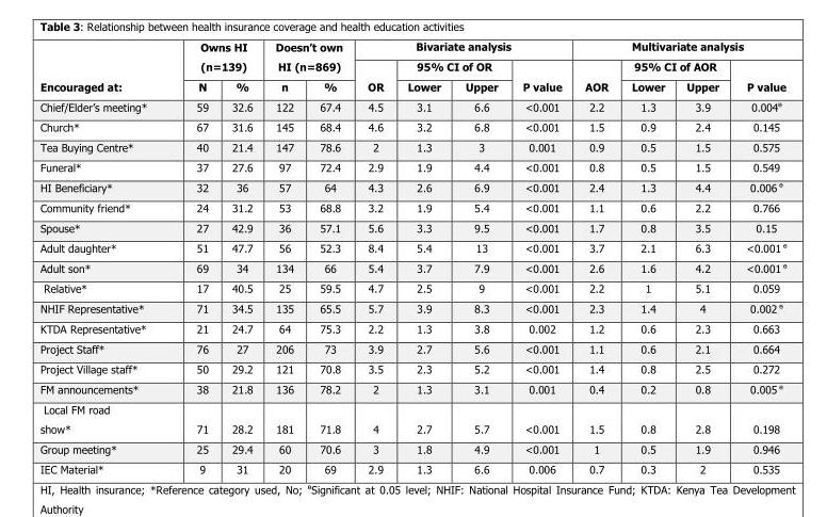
<table><thead><tr><td rowspan="3">Encouraged at:</td><td rowspan="2" colspan="2">Owns HI (n=139)</td><td rowspan="2" colspan="2">Doesn’t own HI (n=869)</td><td colspan="4">Bivariate analysis</td><td colspan="4">Multivariate analysis</td></tr><tr><td rowspan="2">OR</td><td colspan="2">95% CI of OR</td><td rowspan="2">P value</td><td rowspan="2">AOR</td><td colspan="2">95% CI of AOR</td><td rowspan="2">P value</td></tr><tr><td>N</td><td>%</td><td>n</td><td>%</td><td>Lower</td><td>Upper</td><td>Lower</td><td>Upper</td></tr></thead><tbody><tr><td>Chief/Elder’s meeting*</td><td>59</td><td>32.6</td><td>122</td><td>67.4</td><td>4.5</td><td>3.1</td><td>6.6</td><td>&lt;0.001</td><td>2.2</td><td>1.3</td><td>3.9</td><td>0.004ө</td></tr><tr><td>Church*</td><td>67</td><td>31.6</td><td>145</td><td>68.4</td><td>4.6</td><td>3.2</td><td>6.8</td><td>&lt;0.001</td><td>1.5</td><td>0.9</td><td>2.4</td><td>0.145</td></tr><tr><td>Tea Buying Centre*</td><td>40</td><td>21.4</td><td>147</td><td>78.6</td><td>2</td><td>1.3</td><td>3</td><td>0.001</td><td>0.9</td><td>0.5</td><td>1.5</td><td>0.575</td></tr><tr><td>Funeral*</td><td>37</td><td>27.6</td><td>97</td><td>72.4</td><td>2.9</td><td>1.9</td><td>4.4</td><td>&lt;0.001</td><td>0.8</td><td>0.5</td><td>1.5</td><td>0.549</td></tr><tr><td>HI Beneficiary*</td><td>32</td><td>36</td><td>57</td><td>64</td><td>4.3</td><td>2.6</td><td>6.9</td><td>&lt;0.001</td><td>2.4</td><td>1.3</td><td>4.4</td><td>0.006 ө</td></tr><tr><td>Community friend*</td><td>24</td><td>31.2</td><td>53</td><td>68.8</td><td>3.2</td><td>1.9</td><td>5.4</td><td>&lt;0.001</td><td>1.1</td><td>0.6</td><td>2.2</td><td>0.766</td></tr><tr><td>Spouse*</td><td>27</td><td>42.9</td><td>36</td><td>57.1</td><td>5.6</td><td>3.3</td><td>9.5</td><td>&lt;0.001</td><td>1.7</td><td>0.8</td><td>3.5</td><td>0.15</td></tr><tr><td>Adult daughter*</td><td>51</td><td>47.7</td><td>56</td><td>52.3</td><td>8.4</td><td>5.4</td><td>13</td><td>&lt;0.001</td><td>3.7</td><td>2.1</td><td>6.3</td><td>&lt;0.001 ө</td></tr><tr><td>Adult son*</td><td>69</td><td>34</td><td>134</td><td>66</td><td>5.4</td><td>3.7</td><td>7.9</td><td>&lt;0.001</td><td>2.6</td><td>1.6</td><td>4.2</td><td>&lt;0.001 ө</td></tr><tr><td>Relative*</td><td>17</td><td>40.5</td><td>25</td><td>59.5</td><td>4.7</td><td>2.5</td><td>9</td><td>&lt;0.001</td><td>2.2</td><td>1</td><td>5.1</td><td>0.059</td></tr><tr><td>NHIF Representative*</td><td>71</td><td>34.5</td><td>135</td><td>65.5</td><td>5.7</td><td>3.9</td><td>8.3</td><td>&lt;0.001</td><td>2.3</td><td>1.4</td><td>4</td><td>0.002 ө</td></tr><tr><td>KTDA Representative*</td><td>21</td><td>24.7</td><td>64</td><td>75.3</td><td>2.2</td><td>1.3</td><td>3.8</td><td>0.002</td><td>1.2</td><td>0.6</td><td>2.3</td><td>0.663</td></tr><tr><td>Project Staff*</td><td>76</td><td>27</td><td>206</td><td>73</td><td>3.9</td><td>2.7</td><td>5.6</td><td>&lt;0.001</td><td>1.1</td><td>0.6</td><td>2.1</td><td>0.664</td></tr><tr><td>Project Village staff*</td><td>50</td><td>29.2</td><td>121</td><td>70.8</td><td>3.5</td><td>2.3</td><td>5.2</td><td>&lt;0.001</td><td>1.4</td><td>0.8</td><td>2.5</td><td>0.272</td></tr><tr><td>FM announcements*</td><td>38</td><td>21.8</td><td>136</td><td>78.2</td><td>2</td><td>1.3</td><td>3.1</td><td>0.001</td><td>0.4</td><td>0.2</td><td>0.8</td><td>0.005 ө</td></tr><tr><td>Local FM road show*</td><td>71</td><td>28.2</td><td>181</td><td>71.8</td><td>4</td><td>2.7</td><td>5.7</td><td>&lt;0.001</td><td>1.5</td><td>0.8</td><td>2.8</td><td>0.198</td></tr><tr><td>Group meeting*</td><td>25</td><td>29.4</td><td>60</td><td>70.6</td><td>3</td><td>1.8</td><td>4.9</td><td>&lt;0.001</td><td>1</td><td>0.5</td><td>1.9</td><td>0.946</td></tr><tr><td>IEC Material*</td><td>9</td><td>31</td><td>20</td><td>69</td><td>2.9</td><td>1.3</td><td>6.6</td><td>0.006</td><td>0.7</td><td>0.3</td><td>2</td><td>0.535</td></tr></tbody></table>